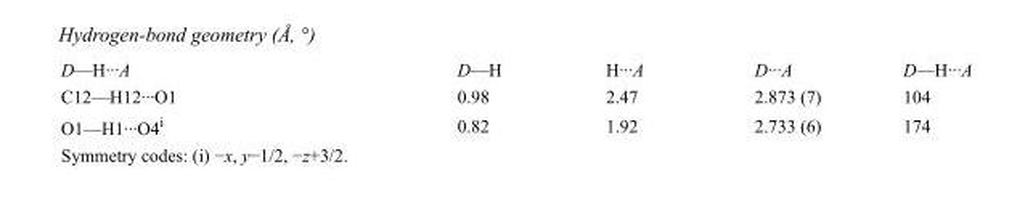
<table><tbody><tr><td>D—H···A</td><td>D—H</td><td>H···A</td><td>D···A</td><td>D—H···A</td></tr><tr><td>C12—H12···O1</td><td>0.98</td><td>2.47</td><td>2.873 (7)</td><td>104</td></tr><tr><td>O1—H1···O4<sup>i</sup></td><td>0.82</td><td>1.92</td><td>2.733 (6)</td><td>174</td></tr></tbody></table>